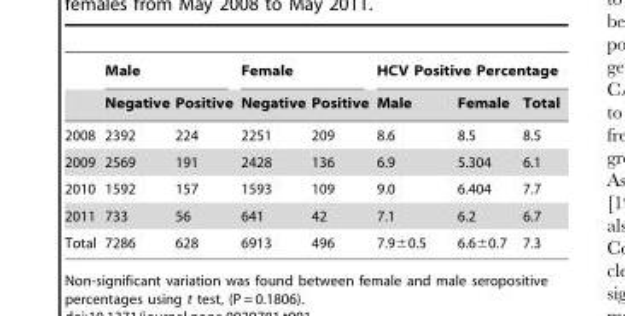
<table><thead><tr><td rowspan="2"></td><td colspan="2">Male</td><td colspan="2">Female</td><td colspan="3">HCV Positive Percentage</td></tr><tr><td>Negative</td><td>Positive</td><td>Negative</td><td>Positive</td><td>Male</td><td>Female</td><td>Total</td></tr></thead><tbody><tr><td>2008</td><td>2392</td><td>224</td><td>2251</td><td>209</td><td>8.6</td><td>8.5</td><td>8.5</td></tr><tr><td>2009</td><td>2569</td><td>191</td><td>2428</td><td>136</td><td>6.9</td><td>5.304</td><td>6.1</td></tr><tr><td>2010</td><td>1592</td><td>157</td><td>1593</td><td>109</td><td>9.0</td><td>6.404</td><td>7.7</td></tr><tr><td>2011</td><td>733</td><td>56</td><td>641</td><td>42</td><td>7.1</td><td>6.2</td><td>6.7</td></tr><tr><td>Total</td><td>7286</td><td>628</td><td>6913</td><td>496</td><td>7.9±0.5</td><td>6.6±0.7</td><td>7.3</td></tr></tbody></table>